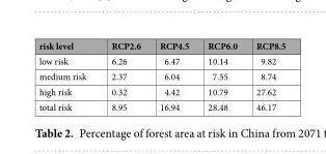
<table><thead><tr><td>risk level</td><td>RCP2.6</td><td>RCP4.5</td><td>RCP6.0</td><td>RCP8.5</td></tr></thead><tbody><tr><td>low risk</td><td>6.26</td><td>6.47</td><td>10.14</td><td>9.82</td></tr><tr><td>medium risk</td><td>2.37</td><td>6.04</td><td>7.55</td><td>8.74</td></tr><tr><td>high risk</td><td>0.32</td><td>4.42</td><td>10.79</td><td>27.62</td></tr><tr><td>total risk</td><td>8.95</td><td>16.94</td><td>28.48</td><td>46.17</td></tr></tbody></table>